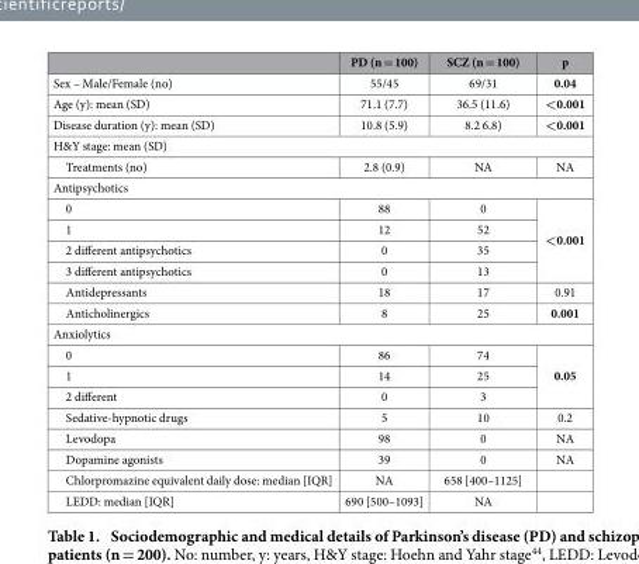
<table><thead><tr><td></td><td>PD (n = 100)</td><td>SCZ (n = 100)</td><td>p</td></tr></thead><tbody><tr><td>Sex – Male/Female (no)</td><td>55/45</td><td>69/31</td><td>0.04</td></tr><tr><td>Age (y): mean (SD)</td><td>71.1 (7.7)</td><td>36.5 (11.6)</td><td>&lt;0.001</td></tr><tr><td>Disease duration (y): mean (SD)</td><td>10.8 (5.9)</td><td>8.2 6.8)</td><td>&lt;0.001</td></tr><tr><td colspan="4">H&amp;Y stage: mean (SD)</td></tr><tr><td>Treatments (no)</td><td>2.8 (0.9)</td><td>NA</td><td>NA</td></tr><tr><td colspan="4">Antipsychotics</td></tr><tr><td>0</td><td>88</td><td>0</td><td rowspan="4">&lt;0.001</td></tr><tr><td>1</td><td>12</td><td>52</td></tr><tr><td>2 different antipsychotics</td><td>0</td><td>35</td></tr><tr><td>3 different antipsychotics</td><td>0</td><td>13</td></tr><tr><td>Antidepressants</td><td>18</td><td>17</td><td>0.91</td></tr><tr><td>Anticholinergics</td><td>8</td><td>25</td><td>0.001</td></tr><tr><td colspan="4">Anxiolytics</td></tr><tr><td>0</td><td>86</td><td>74</td><td rowspan="3">0.05</td></tr><tr><td>1</td><td>14</td><td>25</td></tr><tr><td>2 different</td><td>0</td><td>3</td></tr><tr><td>Sedative-hypnotic drugs</td><td>5</td><td>10</td><td>0.2</td></tr><tr><td>Levodopa</td><td>98</td><td>0</td><td>NA</td></tr><tr><td>Dopamine agonists</td><td>39</td><td>0</td><td>NA</td></tr><tr><td>Chlorpromazine equivalent daily dose: median [IQR]</td><td>NA</td><td>658 [400–1125]</td><td></td></tr><tr><td>LEDD: median [IQR]</td><td>690 [500–1093]</td><td>NA</td><td></td></tr></tbody></table>